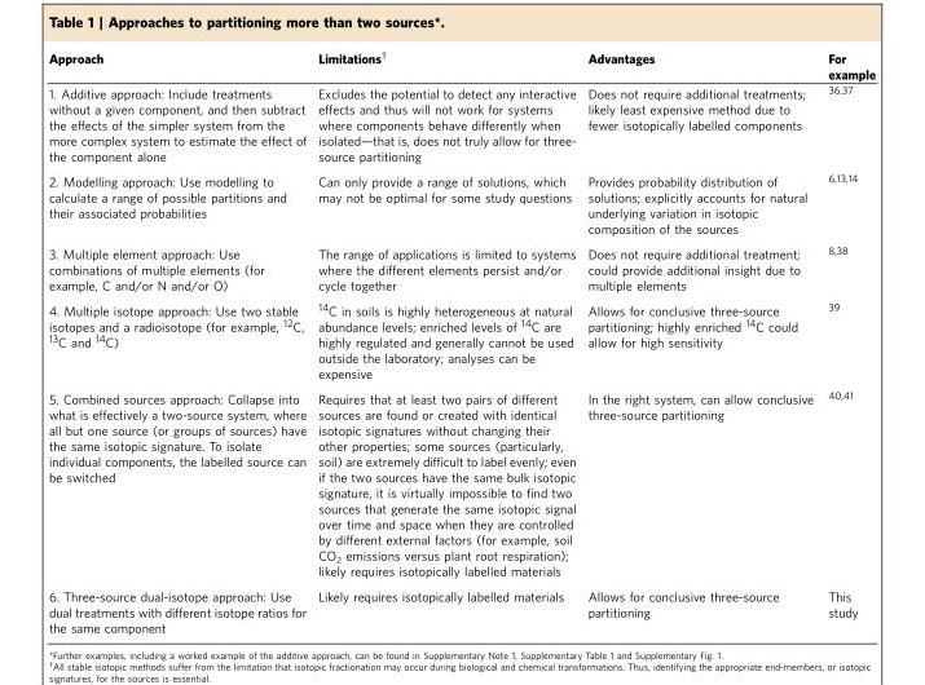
<table><thead><tr><td>Approach</td><td>Limitations†</td><td>Advantages</td><td>For example</td></tr></thead><tbody><tr><td>1. Additive approach: Include treatments without a given component, and then subtract the effects of the simpler system from the more complex system to estimate the effect of the component alone</td><td>Excludes the potential to detect any interactive effects and thus will not work for systems where components behave differently when isolated—that is, does not truly allow for three- source partitioning</td><td>Does not require additional treatments; likely least expensive method due to fewer isotopically labelled components</td><td>36,37</td></tr><tr><td>2. Modelling approach: Use modelling to calculate a range of possible partitions and their associated probabilities</td><td>Can only provide a range of solutions, which may not be optimal for some study questions</td><td>Provides probability distribution of solutions; explicitly accounts for natural underlying variation in isotopic composition of the sources</td><td>6,13,14</td></tr><tr><td>3. Multiple element approach: Use combinations of multiple elements (for example, C and/or N and/or O)</td><td>The range of applications is limited to systems where the different elements persist and/or cycle together</td><td>Does not require additional treatment; could provide additional insight due to multiple elements</td><td>8,38</td></tr><tr><td>4. Multiple isotope approach: Use two stable isotopes and a radioisotope (for example, <sup>12</sup>C, <sup>13</sup>C and <sup>14</sup>C)</td><td><sup>14</sup>C in soils is highly heterogeneous at natural abundance levels; enriched levels of <sup>14</sup>C are highly regulated and generally cannot be used outside the laboratory; analyses can be expensive</td><td>Allows for conclusive three-source partitioning; highly enriched <sup>14</sup>C could allow for high sensitivity</td><td>39</td></tr><tr><td>5. Combined sources approach: Collapse into what is effectively a two-source system, where all but one source (or groups of sources) have the same isotopic signature. To isolate individual components, the labelled source can be switched</td><td>Requires that at least two pairs of different sources are found or created with identical isotopic signatures without changing their other properties; some sources (particularly, soil) are extremely difficult to label evenly; even if the two sources have the same bulk isotopic signature, it is virtually impossible to find two sources that generate the same isotopic signal over time and space when they are controlled by different external factors (for example, soil CO<sub>2</sub> emissions versus plant root respiration); likely requires isotopically labelled materials</td><td>In the right system, can allow conclusive three-source partitioning</td><td>40,41</td></tr><tr><td>6. Three-source dual-isotope approach: Use dual treatments with different isotope ratios for the same component</td><td>Likely requires isotopically labelled materials</td><td>Allows for conclusive three-source partitioning</td><td>This study</td></tr></tbody></table>